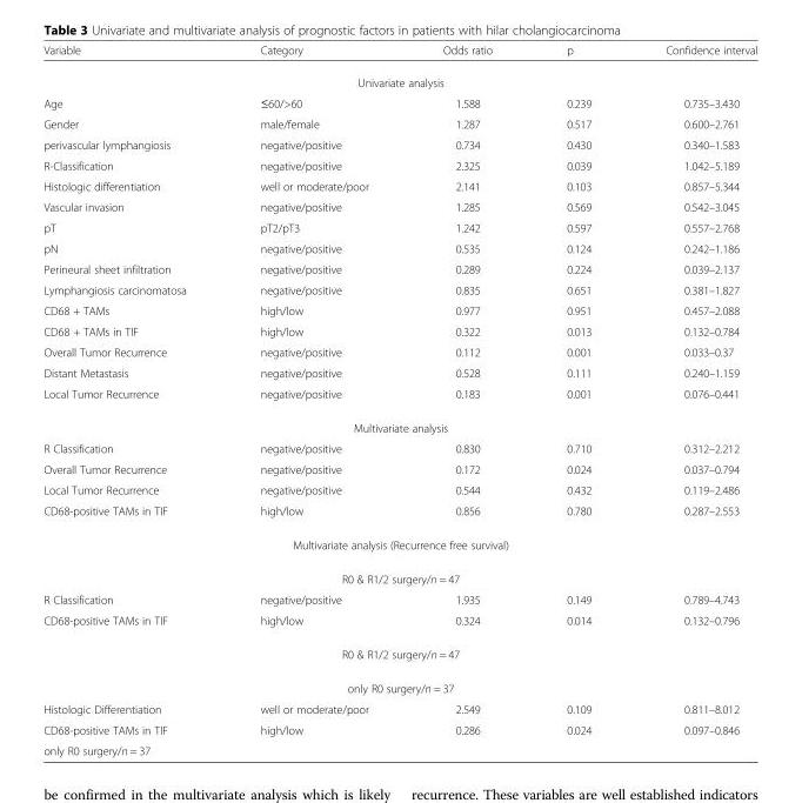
<table><thead><tr><td>Variable</td><td>Category</td><td>Odds ratio</td><td>p</td><td>Confidence interval</td></tr></thead><tbody><tr><td colspan="5">Univariate analysis</td></tr><tr><td>Age</td><td>≤60/&gt;60</td><td>1.588</td><td>0.239</td><td>0.735–3.430</td></tr><tr><td>Gender</td><td>male/female</td><td>1.287</td><td>0.517</td><td>0.600–2.761</td></tr><tr><td>perivascular lymphangiosis</td><td>negative/positive</td><td>0.734</td><td>0.430</td><td>0.340–1.583</td></tr><tr><td>R-Classification</td><td>negative/positive</td><td>2.325</td><td>0.039</td><td>1.042–5.189</td></tr><tr><td>Histologic differentiation</td><td>well or moderate/poor</td><td>2.141</td><td>0.103</td><td>0.857–5.344</td></tr><tr><td>Vascular invasion</td><td>negative/positive</td><td>1.285</td><td>0.569</td><td>0.542–3.045</td></tr><tr><td>pT</td><td>pT2/pT3</td><td>1.242</td><td>0.597</td><td>0.557–2.768</td></tr><tr><td>pN</td><td>negative/positive</td><td>0.535</td><td>0.124</td><td>0.242–1.186</td></tr><tr><td>Perineural sheet infiltration</td><td>negative/positive</td><td>0.289</td><td>0.224</td><td>0.039–2.137</td></tr><tr><td>Lymphangiosis carcinomatosa</td><td>negative/positive</td><td>0.835</td><td>0.651</td><td>0.381–1.827</td></tr><tr><td>CD68 + TAMs</td><td>high/low</td><td>0.977</td><td>0.951</td><td>0.457–2.088</td></tr><tr><td>CD68 + TAMs in TIF</td><td>high/low</td><td>0.322</td><td>0.013</td><td>0.132–0.784</td></tr><tr><td>Overall Tumor Recurrence</td><td>negative/positive</td><td>0.112</td><td>0.001</td><td>0.033–0.37</td></tr><tr><td>Distant Metastasis</td><td>negative/positive</td><td>0.528</td><td>0.111</td><td>0.240–1.159</td></tr><tr><td>Local Tumor Recurrence</td><td>negative/positive</td><td>0.183</td><td>0.001</td><td>0.076–0.441</td></tr><tr><td colspan="5">Multivariate analysis</td></tr><tr><td>R Classification</td><td>negative/positive</td><td>0.830</td><td>0.710</td><td>0.312–2.212</td></tr><tr><td>Overall Tumor Recurrence</td><td>negative/positive</td><td>0.172</td><td>0.024</td><td>0.037–0.794</td></tr><tr><td>Local Tumor Recurrence</td><td>negative/positive</td><td>0.544</td><td>0.432</td><td>0.119–2.486</td></tr><tr><td>CD68-positive TAMs in TIF</td><td>high/low</td><td>0.856</td><td>0.780</td><td>0.287–2.553</td></tr><tr><td colspan="5">Multivariate analysis (Recurrence free survival)</td></tr><tr><td colspan="5">R0 &amp; R1/2 surgery/n = 47</td></tr><tr><td>R Classification</td><td>negative/positive</td><td>1.935</td><td>0.149</td><td>0.789–4.743</td></tr><tr><td>CD68-positive TAMs in TIF</td><td>high/low</td><td>0.324</td><td>0.014</td><td>0.132–0.796</td></tr><tr><td colspan="5">R0 &amp; R1/2 surgery/n = 47</td></tr><tr><td colspan="5">only R0 surgery/n = 37</td></tr><tr><td>Histologic Differentiation</td><td>well or moderate/poor</td><td>2.549</td><td>0.109</td><td>0.811–8.012</td></tr><tr><td>CD68-positive TAMs in TIF</td><td>high/low</td><td>0.286</td><td>0.024</td><td>0.097–0.846</td></tr><tr><td colspan="5">only R0 surgery/n = 37</td></tr></tbody></table>